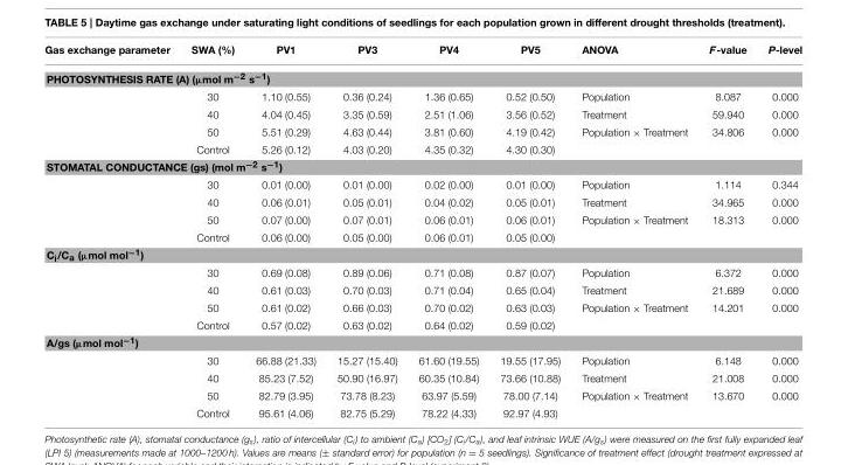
<table><thead><tr><td>Gas exchange parameter</td><td>SWA (%)</td><td>PV1</td><td>PV3</td><td>PV4</td><td>PV5</td><td>ANOVA</td><td>F-value</td><td>P-level</td></tr></thead><tbody><tr><td colspan="9">PHOTOSYNTHESIS RATE (A) (µmol m<sup>−2</sup> s<sup>−1</sup>)</td></tr><tr><td></td><td>30</td><td>1.10 (0.55)</td><td>0.36 (0.24)</td><td>1.36 (0.65)</td><td>0.52 (0.50)</td><td>Population</td><td>8.087</td><td>0.000</td></tr><tr><td></td><td>40</td><td>4.04 (0.45)</td><td>3.35 (0.59)</td><td>2.51 (1.06)</td><td>3.56 (0.52)</td><td>Treatment</td><td>59.940</td><td>0.000</td></tr><tr><td></td><td>50</td><td>5.51 (0.29)</td><td>4.63 (0.44)</td><td>3.81 (0.60)</td><td>4.19 (0.42)</td><td>Population × Treatment</td><td>34.806</td><td>0.000</td></tr><tr><td></td><td>Control</td><td>5.26 (0.12)</td><td>4.03 (0.20)</td><td>4.35 (0.32)</td><td>4.30 (0.30)</td><td></td><td></td><td></td></tr><tr><td colspan="9">STOMATAL CONDUCTANCE (gs) (mol m<sup>−2</sup> s<sup>−1</sup>)</td></tr><tr><td></td><td>30</td><td>0.01 (0.00)</td><td>0.01 (0.00)</td><td>0.02 (0.00)</td><td>0.01 (0.00)</td><td>Population</td><td>1.114</td><td>0.344</td></tr><tr><td></td><td>40</td><td>0.06 (0.01)</td><td>0.05 (0.01)</td><td>0.04 (0.02)</td><td>0.05 (0.01)</td><td>Treatment</td><td>34.965</td><td>0.000</td></tr><tr><td></td><td>50</td><td>0.07 (0.00)</td><td>0.07 (0.01)</td><td>0.06 (0.01)</td><td>0.06 (0.01)</td><td>Population × Treatment</td><td>18.313</td><td>0.000</td></tr><tr><td></td><td>Control</td><td>0.06 (0.00)</td><td>0.05 (0.00)</td><td>0.06 (0.01)</td><td>0.05 (0.00)</td><td></td><td></td><td></td></tr><tr><td colspan="9">C<sub>i</sub>/C<sub>a</sub> (µmol mol<sup>−1</sup>)</td></tr><tr><td></td><td>30</td><td>0.69 (0.08)</td><td>0.89 (0.06)</td><td>0.71 (0.08)</td><td>0.87 (0.07)</td><td>Population</td><td>6.372</td><td>0.000</td></tr><tr><td></td><td>40</td><td>0.61 (0.03)</td><td>0.70 (0.03)</td><td>0.71 (0.04)</td><td>0.65 (0.04)</td><td>Treatment</td><td>21.689</td><td>0.000</td></tr><tr><td></td><td>50</td><td>0.61 (0.02)</td><td>0.66 (0.03)</td><td>0.70 (0.02)</td><td>0.63 (0.03)</td><td>Population × Treatment</td><td>14.201</td><td>0.000</td></tr><tr><td></td><td>Control</td><td>0.57 (0.02)</td><td>0.63 (0.02)</td><td>0.64 (0.02)</td><td>0.59 (0.02)</td><td></td><td></td><td></td></tr><tr><td colspan="9">A/gs (µmol mol<sup>−1</sup>)</td></tr><tr><td></td><td>30</td><td>66.88 (21.33)</td><td>15.27 (15.40)</td><td>61.60 (19.55)</td><td>19.55 (17.95)</td><td>Population</td><td>6.148</td><td>0.000</td></tr><tr><td></td><td>40</td><td>85.23 (7.52)</td><td>50.90 (16.97)</td><td>60.35 (10.84)</td><td>73.66 (10.88)</td><td>Treatment</td><td>21.008</td><td>0.000</td></tr><tr><td></td><td>50</td><td>82.79 (3.95)</td><td>73.78 (8.23)</td><td>63.97 (5.59)</td><td>78.00 (7.14)</td><td>Population × Treatment</td><td>13.670</td><td>0.000</td></tr><tr><td></td><td>Control</td><td>95.61 (4.06)</td><td>82.75 (5.29)</td><td>78.22 (4.33)</td><td>92.97 (4.93)</td><td></td><td></td><td></td></tr></tbody></table>